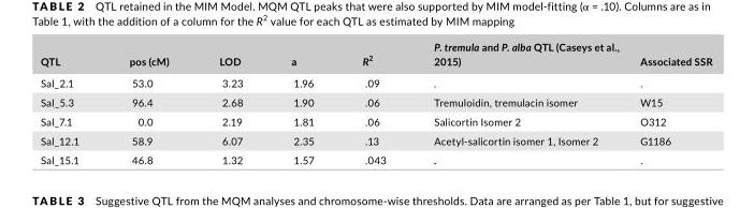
<table><thead><tr><td>QTL</td><td>pos (cM)</td><td>LOD</td><td>a</td><td>R<sup>2</sup></td><td>P. tremula and P. alba QTL (Caseys et al., 2015)</td><td>Associated SSR</td></tr></thead><tbody><tr><td>Sal_2.1</td><td>53.0</td><td>3.23</td><td>1.96</td><td>.09</td><td>.</td><td>.</td></tr><tr><td>Sal_5.3</td><td>96.4</td><td>2.68</td><td>1.90</td><td>.06</td><td>Tremuloidin, tremulacin isomer</td><td>W15</td></tr><tr><td>Sal_7.1</td><td>0.0</td><td>2.19</td><td>1.81</td><td>.06</td><td>Salicortin Isomer 2</td><td>O312</td></tr><tr><td>Sal_12.1</td><td>58.9</td><td>6.07</td><td>2.35</td><td>.13</td><td>Acetyl- salicortin isomer 1, Isomer 2</td><td>G1186</td></tr><tr><td>Sal_15.1</td><td>46.8</td><td>1.32</td><td>1.57</td><td>.043</td><td>.</td><td>.</td></tr></tbody></table>